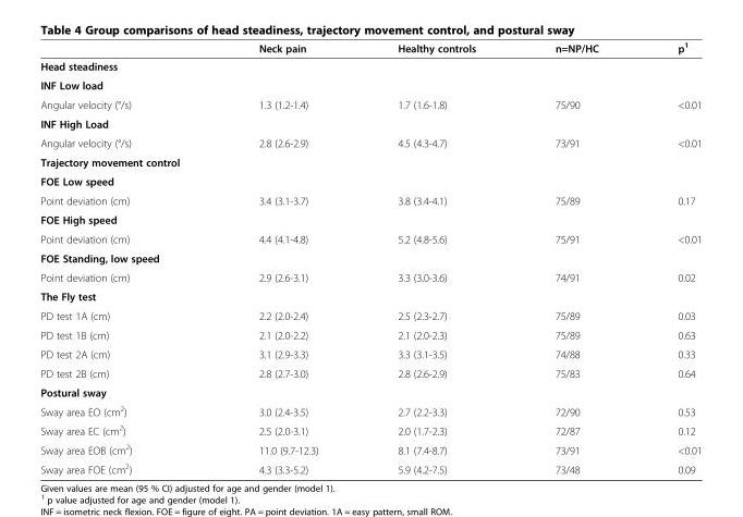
<table><thead><tr><td></td><td>Neck pain</td><td>Healthy controls</td><td>n=NP/HC</td><td>p<sup>1</sup></td></tr></thead><tbody><tr><td colspan="5">Head steadiness</td></tr><tr><td colspan="5">INF Low load</td></tr><tr><td>Angular velocity (°/s)</td><td>1.3 (1.2-1.4)</td><td>1.7 (1.6-1.8)</td><td>75/90</td><td>&lt;0.01</td></tr><tr><td colspan="5">INF High Load</td></tr><tr><td>Angular velocity (°/s)</td><td>2.8 (2.6-2.9)</td><td>4.5 (4.3-4.7)</td><td>73/91</td><td>&lt;0.01</td></tr><tr><td colspan="5">Trajectory movement control</td></tr><tr><td colspan="5">FOE Low speed</td></tr><tr><td>Point deviation (cm)</td><td>3.4 (3.1-3.7)</td><td>3.8 (3.4-4.1)</td><td>75/89</td><td>0.17</td></tr><tr><td colspan="5">FOE High speed</td></tr><tr><td>Point deviation (cm)</td><td>4.4 (4.1-4.8)</td><td>5.2 (4.8-5.6)</td><td>75/91</td><td>&lt;0.01</td></tr><tr><td colspan="5">FOE Standing, low speed</td></tr><tr><td>Point deviation (cm)</td><td>2.9 (2.6-3.1)</td><td>3.3 (3.0-3.6)</td><td>74/91</td><td>0.02</td></tr><tr><td colspan="5">The Fly test</td></tr><tr><td>PD test 1A (cm)</td><td>2.2 (2.0-2.4)</td><td>2.5 (2.3-2.7)</td><td>75/89</td><td>0.03</td></tr><tr><td>PD test 1B (cm)</td><td>2.1 (2.0-2.2)</td><td>2.1 (2.0-2.3)</td><td>75/89</td><td>0.63</td></tr><tr><td>PD test 2A (cm)</td><td>3.1 (2.9-3.3)</td><td>3.3 (3.1-3.5)</td><td>74/88</td><td>0.33</td></tr><tr><td>PD test 2B (cm)</td><td>2.8 (2.7-3.0)</td><td>2.8 (2.6-2.9)</td><td>75/83</td><td>0.64</td></tr><tr><td colspan="5">Postural sway</td></tr><tr><td>Sway area EO (cm<sup>2</sup>)</td><td>3.0 (2.4-3.5)</td><td>2.7 (2.2-3.3)</td><td>72/90</td><td>0.53</td></tr><tr><td>Sway area EC (cm<sup>2</sup>)</td><td>2.5 (2.0-3.1)</td><td>2.0 (1.7-2.3)</td><td>72/87</td><td>0.12</td></tr><tr><td>Sway area EOB (cm<sup>2</sup>)</td><td>11.0 (9.7-12.3)</td><td>8.1 (7.4-8.7)</td><td>73/91</td><td>&lt;0.01</td></tr><tr><td>Sway area FOE (cm<sup>2</sup>)</td><td>4.3 (3.3-5.2)</td><td>5.9 (4.2-7.5)</td><td>73/48</td><td>0.09</td></tr></tbody></table>